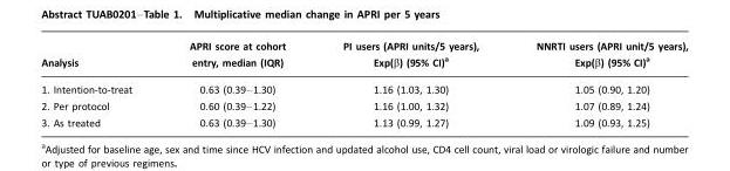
<table><thead><tr><td>Analysis</td><td>APRI score at cohort entry, median (IQR)</td><td>PI users (APRI units/5 years), Exp(β) (95% CI)a</td><td>NNRTI users (APRI unit/5 years), Exp(β) (95% CI)a</td></tr></thead><tbody><tr><td>1. Intention-to-treat</td><td>0.63 (0.39–1.30)</td><td>1.16 (1.03, 1.30)</td><td>1.05 (0.90, 1.20)</td></tr><tr><td>2. Per protocol</td><td>0.60 (0.39–1.22)</td><td>1.16 (1.00, 1.32)</td><td>1.07 (0.89, 1.24)</td></tr><tr><td>3. As treated</td><td>0.63 (0.39–1.30)</td><td>1.13 (0.99, 1.27)</td><td>1.09 (0.93, 1.25)</td></tr></tbody></table>